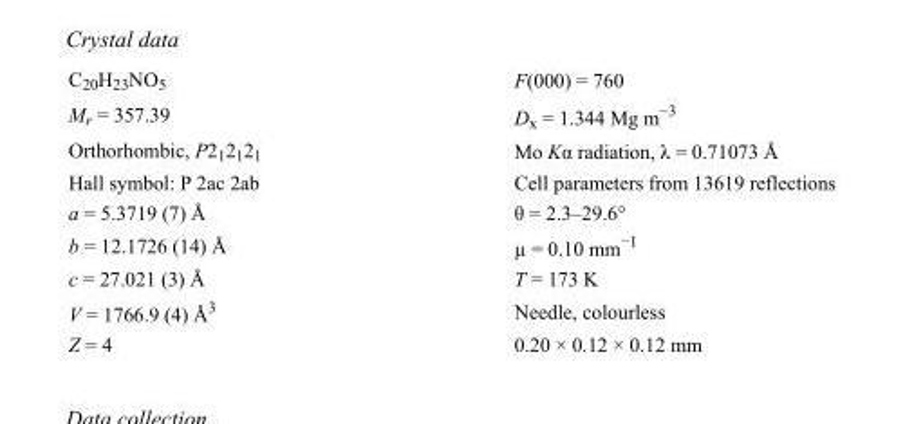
<table><tbody><tr><td>C<sub>20</sub>H<sub>23</sub>NO<sub>5</sub></td><td>F(000) = 760</td></tr><tr><td>M<sub>r</sub> = 357.39</td><td>D<sub>x</sub> = 1.344 Mg m<sup>−3</sup></td></tr><tr><td>Orthorhombic, P2<sub>1</sub>2<sub>1</sub>2<sub>1</sub></td><td>Mo Kα radiation, λ = 0.71073 Å</td></tr><tr><td>Hall symbol: P 2ac 2ab</td><td>Cell parameters from 13619 reflections</td></tr><tr><td>a = 5.3719 (7) Å</td><td>θ = 2.3–29.6°</td></tr><tr><td>b = 12.1726 (14) Å</td><td>µ = 0.10 mm<sup>−1</sup></td></tr><tr><td>c = 27.021 (3) Å</td><td>T = 173 K</td></tr><tr><td>V = 1766.9 (4) Å<sup>3</sup></td><td>Needle, colourless</td></tr><tr><td>Z = 4</td><td>0.20 × 0.12 × 0.12 mm</td></tr></tbody></table>